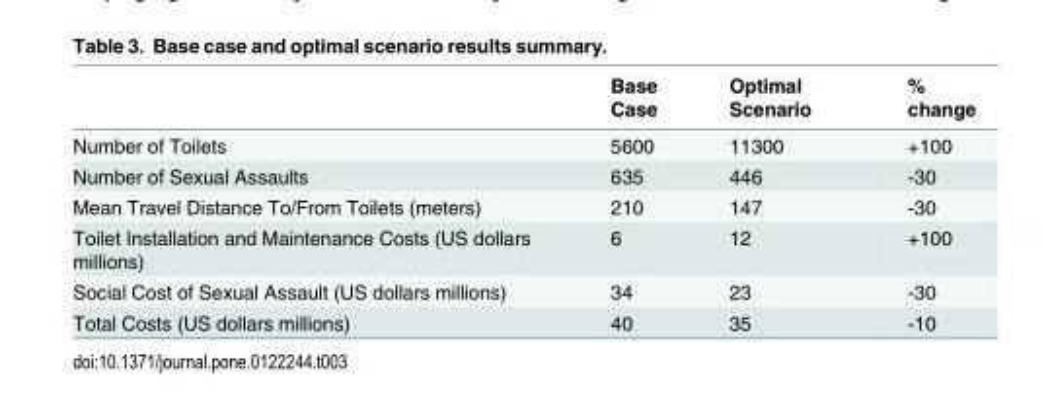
<table><thead><tr><td></td><td>Base Case</td><td>Optimal Scenario</td><td>% change</td></tr></thead><tbody><tr><td>Number of Toilets</td><td>5600</td><td>11300</td><td>+100</td></tr><tr><td>Number of Sexual Assaults</td><td>635</td><td>446</td><td>-30</td></tr><tr><td>Mean Travel Distance To/From Toilets (meters)</td><td>210</td><td>147</td><td>-30</td></tr><tr><td>Toilet Installation and Maintenance Costs (US dollars millions)</td><td>6</td><td>12</td><td>+100</td></tr><tr><td>Social Cost of Sexual Assault (US dollars millions)</td><td>34</td><td>23</td><td>-30</td></tr><tr><td>Total Costs (US dollars millions)</td><td>40</td><td>35</td><td>-10</td></tr></tbody></table>